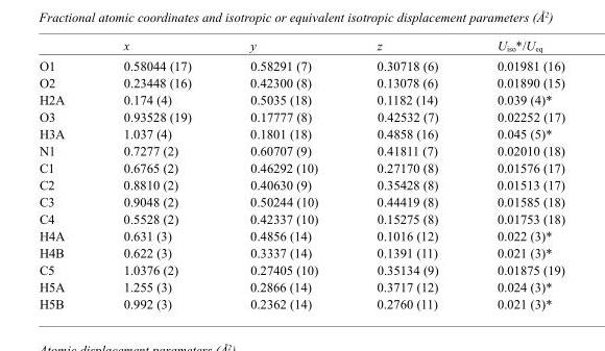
<table><thead><tr><td></td><td>x</td><td>y</td><td>z</td><td>U<sub>iso</sub>*/U<sub>eq</sub></td></tr></thead><tbody><tr><td>O1</td><td>0.58044 (17)</td><td>0.58291 (7)</td><td>0.30718 (6)</td><td>0.01981 (16)</td></tr><tr><td>O2</td><td>0.23448 (16)</td><td>0.42300 (8)</td><td>0.13078 (6)</td><td>0.01890 (15)</td></tr><tr><td>H2A</td><td>0.174 (4)</td><td>0.5035 (18)</td><td>0.1182 (14)</td><td>0.039 (4)*</td></tr><tr><td>O3</td><td>0.93528 (19)</td><td>0.17777 (8)</td><td>0.42532 (7)</td><td>0.02252 (17)</td></tr><tr><td>H3A</td><td>1.037 (4)</td><td>0.1801 (18)</td><td>0.4858 (16)</td><td>0.045 (5)*</td></tr><tr><td>N1</td><td>0.7277 (2)</td><td>0.60707 (9)</td><td>0.41811 (7)</td><td>0.02010 (18)</td></tr><tr><td>C1</td><td>0.6765 (2)</td><td>0.46292 (10)</td><td>0.27170 (8)</td><td>0.01576 (17)</td></tr><tr><td>C2</td><td>0.8810 (2)</td><td>0.40630 (9)</td><td>0.35428 (8)</td><td>0.01513 (17)</td></tr><tr><td>C3</td><td>0.9048 (2)</td><td>0.50244 (10)</td><td>0.44419 (8)</td><td>0.01585 (18)</td></tr><tr><td>C4</td><td>0.5528 (2)</td><td>0.42337 (10)</td><td>0.15275 (8)</td><td>0.01753 (18)</td></tr><tr><td>H4A</td><td>0.631 (3)</td><td>0.4856 (14)</td><td>0.1016 (12)</td><td>0.022 (3)*</td></tr><tr><td>H4B</td><td>0.622 (3)</td><td>0.3337 (14)</td><td>0.1391 (11)</td><td>0.021 (3)*</td></tr><tr><td>C5</td><td>1.0376 (2)</td><td>0.27405 (10)</td><td>0.35134 (9)</td><td>0.01875 (19)</td></tr><tr><td>H5A</td><td>1.255 (3)</td><td>0.2866 (14)</td><td>0.3717 (12)</td><td>0.024 (3)*</td></tr><tr><td>H5B</td><td>0.992 (3)</td><td>0.2362 (14)</td><td>0.2760 (11)</td><td>0.021 (3)*</td></tr></tbody></table>